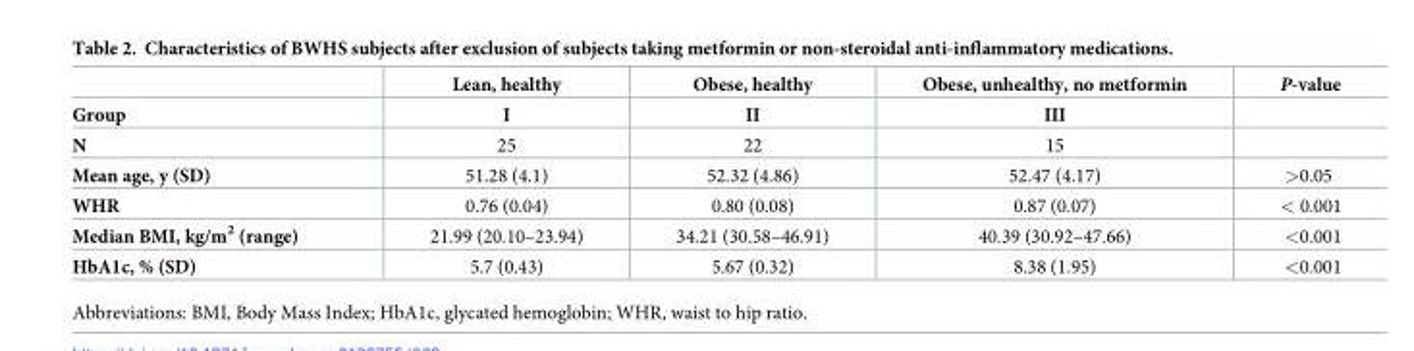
<table><thead><tr><td rowspan="2">Group</td><td rowspan="2">Lean, healthy I</td><td rowspan="2">Obese, healthy II</td><td rowspan="2">Obese, unhealthy, no metformin III</td><td rowspan="2">P-value</td></tr><tr></tr></thead><tbody><tr><td>N</td><td>25</td><td>22</td><td>15</td><td></td></tr><tr><td>Mean age, y (SD)</td><td>51.28 (4.1)</td><td>52.32 (4.86)</td><td>52.47 (4.17)</td><td>&gt;0.05</td></tr><tr><td>WHR</td><td>0.76 (0.04)</td><td>0.80 (0.08)</td><td>0.87 (0.07)</td><td>&lt; 0.001</td></tr><tr><td>Median BMI, kg/m<sup>2</sup> (range)</td><td>21.99 (20.10–23.94)</td><td>34.21 (30.58–46.91)</td><td>40.39 (30.92–47.66)</td><td>&lt;0.001</td></tr><tr><td>HbA1c, % (SD)</td><td>5.7 (0.43)</td><td>5.67 (0.32)</td><td>8.38 (1.95)</td><td>&lt;0.001</td></tr></tbody></table>